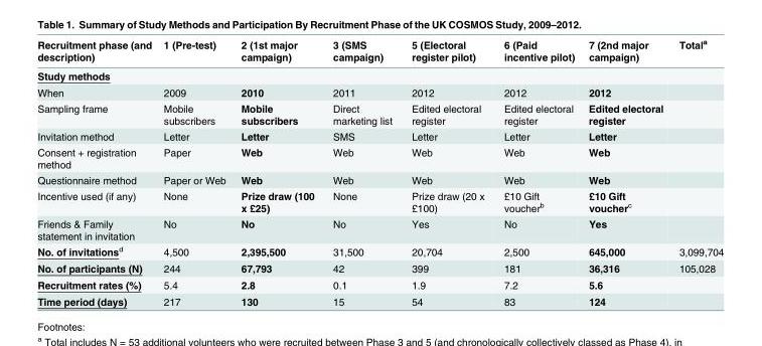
<table><thead><tr><td>Recruitment phase (and description)</td><td>1 (Pre-test)</td><td>2 (1st major campaign)</td><td>3 (SMS campaign)</td><td>5 (Electoral register pilot)</td><td>6 (Paid incentive pilot)</td><td>7 (2nd major campaign)</td><td>Total<sup>a</sup></td></tr></thead><tbody><tr><td colspan="8">Study methods</td></tr><tr><td>When</td><td>2009</td><td>2010</td><td>2011</td><td>2012</td><td>2012</td><td>2012</td><td></td></tr><tr><td>Sampling frame</td><td>Mobile subscribers</td><td>Mobile subscribers</td><td>Direct marketing list</td><td>Edited electoral register</td><td>Edited electoral register</td><td>Edited electoral register</td><td></td></tr><tr><td>Invitation method</td><td>Letter</td><td>Letter</td><td>SMS</td><td>Letter</td><td>Letter</td><td>Letter</td><td></td></tr><tr><td>Consent + registration method</td><td>Paper</td><td>Web</td><td>Web</td><td>Web</td><td>Web</td><td>Web</td><td></td></tr><tr><td>Questionnaire method</td><td>Paper or Web</td><td>Web</td><td>Web</td><td>Web</td><td>Web</td><td>Web</td><td></td></tr><tr><td>Incentive used (if any)</td><td>None</td><td>Prize draw (100 x £25)</td><td>None</td><td>Prize draw (20 x £100)</td><td>£10 Gift voucher<sup>b</sup></td><td>£10 Gift voucher<sup>c</sup></td><td></td></tr><tr><td>Friends &amp; Family statement in invitation</td><td>No</td><td>No</td><td>No</td><td>Yes</td><td>No</td><td>Yes</td><td></td></tr><tr><td>No. of invitations<sup>d</sup></td><td>4,500</td><td>2,395,500</td><td>31,500</td><td>20,704</td><td>2,500</td><td>645,000</td><td>3,099,704</td></tr><tr><td>No. of participants (N)</td><td>244</td><td>67,793</td><td>42</td><td>399</td><td>181</td><td>36,316</td><td>105,028</td></tr><tr><td>Recruitment rates (%)</td><td>5.4</td><td>2.8</td><td>0.1</td><td>1.9</td><td>7.2</td><td>5.6</td><td></td></tr><tr><td>Time period (days)</td><td>217</td><td>130</td><td>15</td><td>54</td><td>83</td><td>124</td><td></td></tr></tbody></table>